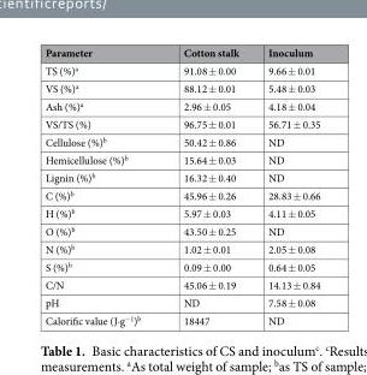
<table><thead><tr><td>Parameter</td><td>Cotton stalk</td><td>Inoculum</td></tr></thead><tbody><tr><td>TS (%)<sup>a</sup></td><td>91.08 ± 0.00</td><td>9.66 ± 0.01</td></tr><tr><td>VS (%)<sup>a</sup></td><td>88.12 ± 0.01</td><td>5.48 ± 0.03</td></tr><tr><td>Ash (%)<sup>a</sup></td><td>2.96 ± 0.05</td><td>4.18 ± 0.04</td></tr><tr><td>VS/TS (%)</td><td>96.75 ± 0.01</td><td>56.71 ± 0.35</td></tr><tr><td>Cellulose (%)<sup>b</sup></td><td>50.42 ± 0.86</td><td>ND</td></tr><tr><td>Hemicellulose (%)<sup>b</sup></td><td>15.64 ± 0.03</td><td>ND</td></tr><tr><td>Lignin (%)<sup>b</sup></td><td>16.32 ± 0.40</td><td>ND</td></tr><tr><td>C (%)<sup>b</sup></td><td>45.96 ± 0.26</td><td>28.83 ± 0.66</td></tr><tr><td>H (%)<sup>b</sup></td><td>5.97 ± 0.03</td><td>4.11 ± 0.05</td></tr><tr><td>O (%)<sup>b</sup></td><td>43.50 ± 0.25</td><td>ND</td></tr><tr><td>N (%)<sup>b</sup></td><td>1.02 ± 0.01</td><td>2.05 ± 0.08</td></tr><tr><td>S (%)<sup>b</sup></td><td>0.09 ± 0.00</td><td>0.64 ± 0.05</td></tr><tr><td>C/N</td><td>45.06 ± 0.19</td><td>14.13 ± 0.84</td></tr><tr><td>pH</td><td>ND</td><td>7.58 ± 0.08</td></tr><tr><td>Calorific value (J·g<sup>−1</sup>)<sup>b</sup></td><td>18447</td><td>ND</td></tr></tbody></table>